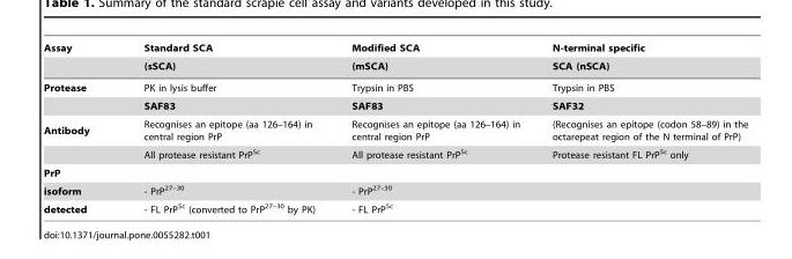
<table><thead><tr><td rowspan="2">Assay</td><td rowspan="2">Standard SCA (sSCA)</td><td rowspan="2">Modified SCA (mSCA)</td><td rowspan="2">N-terminal specific SCA (nSCA)</td></tr><tr></tr></thead><tbody><tr><td rowspan="2">Protease</td><td>PK in lysis buffer</td><td>Trypsin in PBS</td><td>Trypsin in PBS</td></tr><tr><td>SAF83</td><td>SAF83</td><td>SAF32</td></tr><tr><td rowspan="2">Antibody</td><td>Recognises an epitope (aa 126–164) in central region PrP</td><td>Recognises an epitope (aa 126–164) in central region PrP</td><td>(Recognises an epitope (codon 58–89) in the octarepeat region of the N terminal of PrP)</td></tr><tr><td>All protease resistant PrP<sup>Sc</sup></td><td>All protease resistant PrP<sup>Sc</sup></td><td>Protease resistant FL PrP<sup>Sc</sup> only</td></tr><tr><td colspan="4">PrP</td></tr><tr><td>isoform</td><td>- PrP<sup>27–30</sup></td><td>- PrP<sup>27–30</sup></td><td></td></tr><tr><td>detected</td><td>- FL PrP<sup>Sc</sup> (converted to PrP<sup>27–30</sup> by PK)</td><td>- FL PrP<sup>Sc</sup></td><td></td></tr></tbody></table>